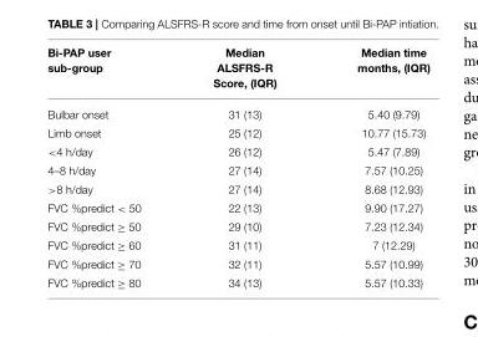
<table><thead><tr><td>Bi-PAP user sub-group</td><td>Median ALSFRS-R Score, (IQR)</td><td>Median time months, (IQR)</td></tr></thead><tbody><tr><td>Bulbar onset</td><td>31 (13)</td><td>5.40 (9.79)</td></tr><tr><td>Limb onset</td><td>25 (12)</td><td>10.77 (15.73)</td></tr><tr><td>&lt;4 h/day</td><td>26 (12)</td><td>5.47 (7.89)</td></tr><tr><td>4–8 h/day</td><td>27 (14)</td><td>7.57 (10.25)</td></tr><tr><td>&gt;8 h/day</td><td>27 (14)</td><td>8.68 (12.93)</td></tr><tr><td>FVC %predict &lt; 50</td><td>22 (13)</td><td>9.90 (17.27)</td></tr><tr><td>FVC %predict ≥ 50</td><td>29 (10)</td><td>7.23 (12.34)</td></tr><tr><td>FVC %predict ≥ 60</td><td>31 (11)</td><td>7 (12.29)</td></tr><tr><td>FVC %predict ≥ 70</td><td>32 (11)</td><td>5.57 (10.99)</td></tr><tr><td>FVC %predict ≥ 80</td><td>34 (13)</td><td>5.57 (10.33)</td></tr></tbody></table>